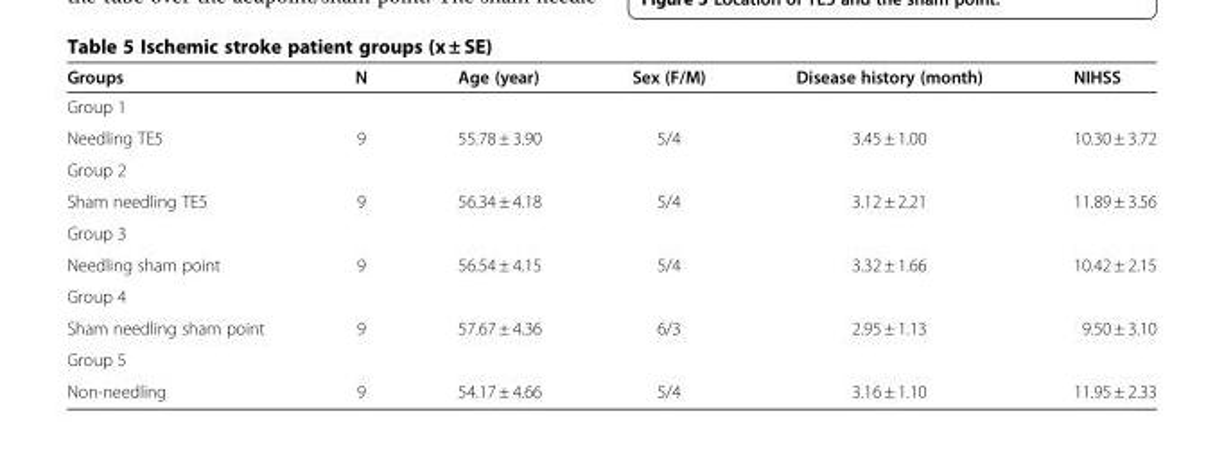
<table><thead><tr><td>Groups</td><td>N</td><td>Age (year)</td><td>Sex (F/M)</td><td>Disease history (month)</td><td>NIHSS</td></tr></thead><tbody><tr><td colspan="6">Group 1</td></tr><tr><td>Needling TE5</td><td>9</td><td>55.78 ± 3.90</td><td>5/4</td><td>3.45 ± 1.00</td><td>10.30 ± 3.72</td></tr><tr><td colspan="6">Group 2</td></tr><tr><td>Sham needling TE5</td><td>9</td><td>56.34 ± 4.18</td><td>5/4</td><td>3.12 ± 2.21</td><td>11.89 ± 3.56</td></tr><tr><td colspan="6">Group 3</td></tr><tr><td>Needling sham point</td><td>9</td><td>56.54 ± 4.15</td><td>5/4</td><td>3.32 ± 1.66</td><td>10.42 ± 2.15</td></tr><tr><td colspan="6">Group 4</td></tr><tr><td>Sham needling sham point</td><td>9</td><td>57.67 ± 4.36</td><td>6/3</td><td>2.95 ± 1.13</td><td>9.50 ± 3.10</td></tr><tr><td colspan="6">Group 5</td></tr><tr><td>Non-needling</td><td>9</td><td>54.17 ± 4.66</td><td>5/4</td><td>3.16 ± 1.10</td><td>11.95 ± 2.33</td></tr></tbody></table>